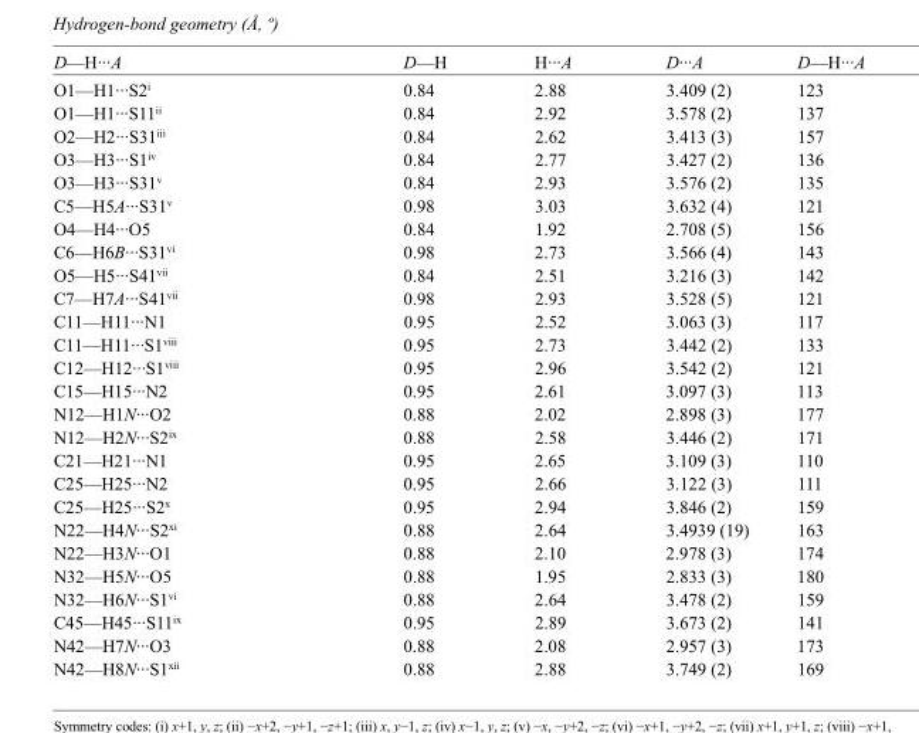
<table><tbody><tr><td>D—H···A</td><td>D—H</td><td>H···A</td><td>D···A</td><td>D—H···A</td></tr><tr><td>O1—H1···S2<sup>i</sup></td><td>0.84</td><td>2.88</td><td>3.409 (2)</td><td>123</td></tr><tr><td>O1—H1···S11<sup>ii</sup></td><td>0.84</td><td>2.92</td><td>3.578 (2)</td><td>137</td></tr><tr><td>O2—H2···S31<sup>iii</sup></td><td>0.84</td><td>2.62</td><td>3.413 (3)</td><td>157</td></tr><tr><td>O3—H3···S1<sup>iv</sup></td><td>0.84</td><td>2.77</td><td>3.427 (2)</td><td>136</td></tr><tr><td>O3—H3···S31<sup>v</sup></td><td>0.84</td><td>2.93</td><td>3.576 (2)</td><td>135</td></tr><tr><td>C5—H5A···S31<sup>v</sup></td><td>0.98</td><td>3.03</td><td>3.632 (4)</td><td>121</td></tr><tr><td>O4—H4···O5</td><td>0.84</td><td>1.92</td><td>2.708 (5)</td><td>156</td></tr><tr><td>C6—H6B···S31<sup>vi</sup></td><td>0.98</td><td>2.73</td><td>3.566 (4)</td><td>143</td></tr><tr><td>O5—H5···S41<sup>vii</sup></td><td>0.84</td><td>2.51</td><td>3.216 (3)</td><td>142</td></tr><tr><td>C7—H7A···S41<sup>vii</sup></td><td>0.98</td><td>2.93</td><td>3.528 (5)</td><td>121</td></tr><tr><td>C11—H11···N1</td><td>0.95</td><td>2.52</td><td>3.063 (3)</td><td>117</td></tr><tr><td>C11—H11···S1<sup>viii</sup></td><td>0.95</td><td>2.73</td><td>3.442 (2)</td><td>133</td></tr><tr><td>C12—H12···S1<sup>viii</sup></td><td>0.95</td><td>2.96</td><td>3.542 (2)</td><td>121</td></tr><tr><td>C15—H15···N2</td><td>0.95</td><td>2.61</td><td>3.097 (3)</td><td>113</td></tr><tr><td>N12—H1N···O2</td><td>0.88</td><td>2.02</td><td>2.898 (3)</td><td>177</td></tr><tr><td>N12—H2N···S2<sup>ix</sup></td><td>0.88</td><td>2.58</td><td>3.446 (2)</td><td>171</td></tr><tr><td>C21—H21···N1</td><td>0.95</td><td>2.65</td><td>3.109 (3)</td><td>110</td></tr><tr><td>C25—H25···N2</td><td>0.95</td><td>2.66</td><td>3.122 (3)</td><td>111</td></tr><tr><td>C25—H25···S2<sup>x</sup></td><td>0.95</td><td>2.94</td><td>3.846 (2)</td><td>159</td></tr><tr><td>N22—H4N···S2<sup>xi</sup></td><td>0.88</td><td>2.64</td><td>3.4939 (19)</td><td>163</td></tr><tr><td>N22—H3N···O1</td><td>0.88</td><td>2.10</td><td>2.978 (3)</td><td>174</td></tr><tr><td>N32—H5N···O5</td><td>0.88</td><td>1.95</td><td>2.833 (3)</td><td>180</td></tr><tr><td>N32—H6N···S1<sup>vi</sup></td><td>0.88</td><td>2.64</td><td>3.478 (2)</td><td>159</td></tr><tr><td>C45—H45···S11<sup>ix</sup></td><td>0.95</td><td>2.89</td><td>3.673 (2)</td><td>141</td></tr><tr><td>N42—H7N···O3</td><td>0.88</td><td>2.08</td><td>2.957 (3)</td><td>173</td></tr><tr><td>N42—H8N···S1<sup>xii</sup></td><td>0.88</td><td>2.88</td><td>3.749 (2)</td><td>169</td></tr></tbody></table>